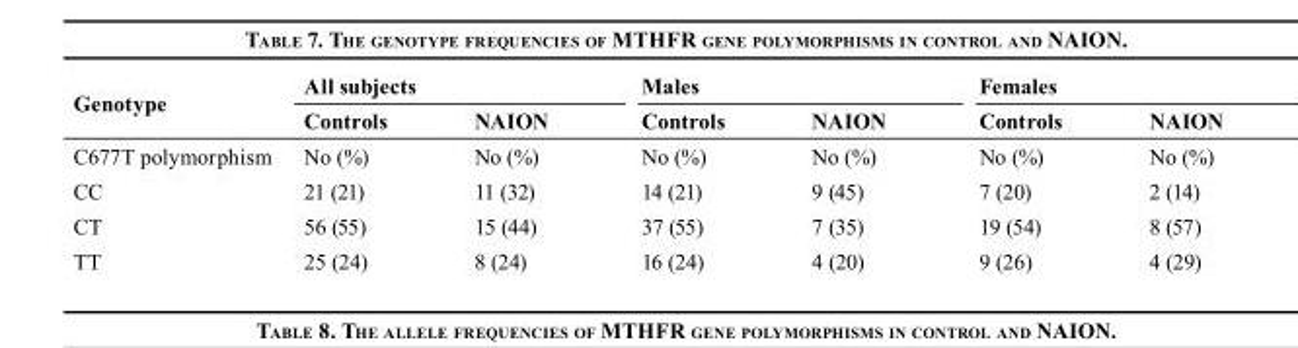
<table><thead><tr><td rowspan="2">Genotype</td><td colspan="2">All subjects</td><td colspan="2">Males</td><td colspan="2">Females</td></tr><tr><td>Controls</td><td>NAION</td><td>Controls</td><td>NAION</td><td>Controls</td><td>NAION</td></tr></thead><tbody><tr><td>C677T polymorphism</td><td>No (%)</td><td>No (%)</td><td>No (%)</td><td>No (%)</td><td>No (%)</td><td>No (%)</td></tr><tr><td>CC</td><td>21 (21)</td><td>11 (32)</td><td>14 (21)</td><td>9 (45)</td><td>7 (20)</td><td>2 (14)</td></tr><tr><td>CT</td><td>56 (55)</td><td>15 (44)</td><td>37 (55)</td><td>7 (35)</td><td>19 (54)</td><td>8 (57)</td></tr><tr><td>TT</td><td>25 (24)</td><td>8 (24)</td><td>16 (24)</td><td>4 (20)</td><td>9 (26)</td><td>4 (29)</td></tr></tbody></table>